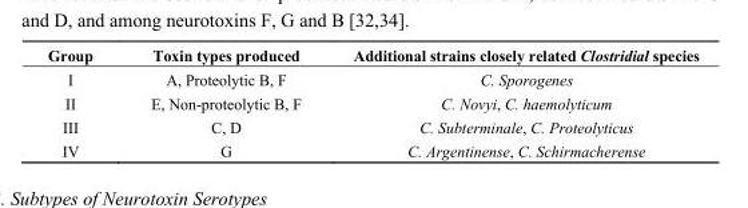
<table><thead><tr><td>Group</td><td>Toxin types produced</td><td>Additional strains closely related Clostridial species</td></tr></thead><tbody><tr><td>I</td><td>A, Proteolytic B, F</td><td>C. Sporogenes</td></tr><tr><td>II</td><td>E, Non-proteolytic B, F</td><td>C. Novyi, C. haemolyticum</td></tr><tr><td>III</td><td>C, D</td><td>C. Subterminale, C. Proteolyticus</td></tr><tr><td>IV</td><td>G</td><td>C. Argentinense, C. Schirmacherense</td></tr></tbody></table>